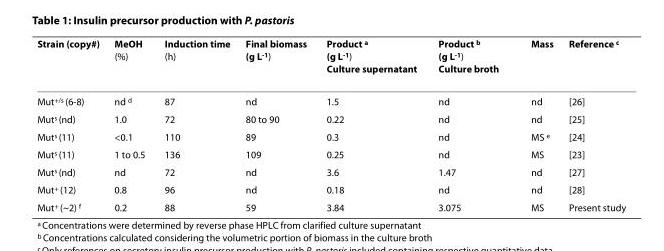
<table><thead><tr><td>Strain (copy#)</td><td>MeOH (%)</td><td>Induction time (h)</td><td>Final biomass (g L<sup>-1</sup>)</td><td>Product <sup>a</sup> (g L<sup>-1</sup>) Culture supernatant</td><td>Product <sup>b</sup> (g L<sup>-1</sup>) Culture broth</td><td>Mass</td><td>Reference <sup>c</sup></td></tr></thead><tbody><tr><td>Mut<sup>+/s</sup> (6-8)</td><td>nd <sup>d</sup></td><td>87</td><td>nd</td><td>1.5</td><td>nd</td><td>nd</td><td>[26]</td></tr><tr><td>Mut<sup>s</sup> (nd)</td><td>1.0</td><td>72</td><td>80 to 90</td><td>0.22</td><td>nd</td><td>nd</td><td>[25]</td></tr><tr><td>Mut<sup>s</sup> (11)</td><td>&lt;0.1</td><td>110</td><td>89</td><td>0.3</td><td>nd</td><td>MS <sup>e</sup></td><td>[24]</td></tr><tr><td>Mut<sup>s</sup> (11)</td><td>1 to 0.5</td><td>136</td><td>109</td><td>0.25</td><td>nd</td><td>MS</td><td>[23]</td></tr><tr><td>Mut<sup>s</sup> (nd)</td><td>nd</td><td>72</td><td>nd</td><td>3.6</td><td>1.47</td><td>nd</td><td>[27]</td></tr><tr><td>Mut<sup>+</sup> (12)</td><td>0.8</td><td>96</td><td>nd</td><td>0.18</td><td>nd</td><td>nd</td><td>[28]</td></tr><tr><td>Mut<sup>+</sup> (~2) <sup>f</sup></td><td>0.2</td><td>88</td><td>59</td><td>3.84</td><td>3.075</td><td>MS</td><td>Present study</td></tr></tbody></table>